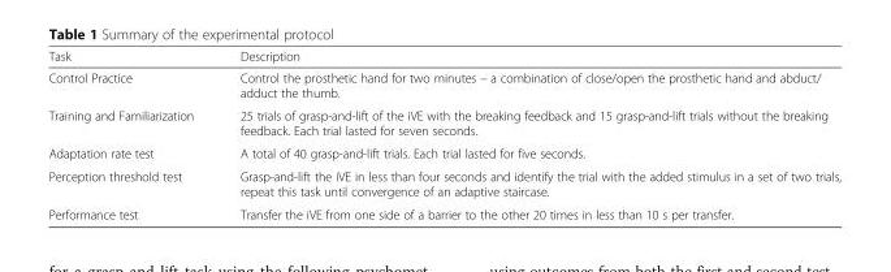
<table><thead><tr><td>Task</td><td>Description</td></tr></thead><tbody><tr><td>Control Practice</td><td>Control the prosthetic hand for two minutes – a combination of close/open the prosthetic hand and abduct/ adduct the thumb.</td></tr><tr><td>Training and Familiarization</td><td>25 trials of grasp-and-lift of the iVE with the breaking feedback and 15 grasp-and-lift trials without the breaking feedback. Each trial lasted for seven seconds.</td></tr><tr><td>Adaptation rate test</td><td>A total of 40 grasp-and-lift trials. Each trial lasted for five seconds.</td></tr><tr><td>Perception threshold test</td><td>Grasp-and-lift the iVE in less than four seconds and identify the trial with the added stimulus in a set of two trials, repeat this task until convergence of an adaptive staircase.</td></tr><tr><td>Performance test</td><td>Transfer the iVE from one side of a barrier to the other 20 times in less than 10 s per transfer.</td></tr></tbody></table>